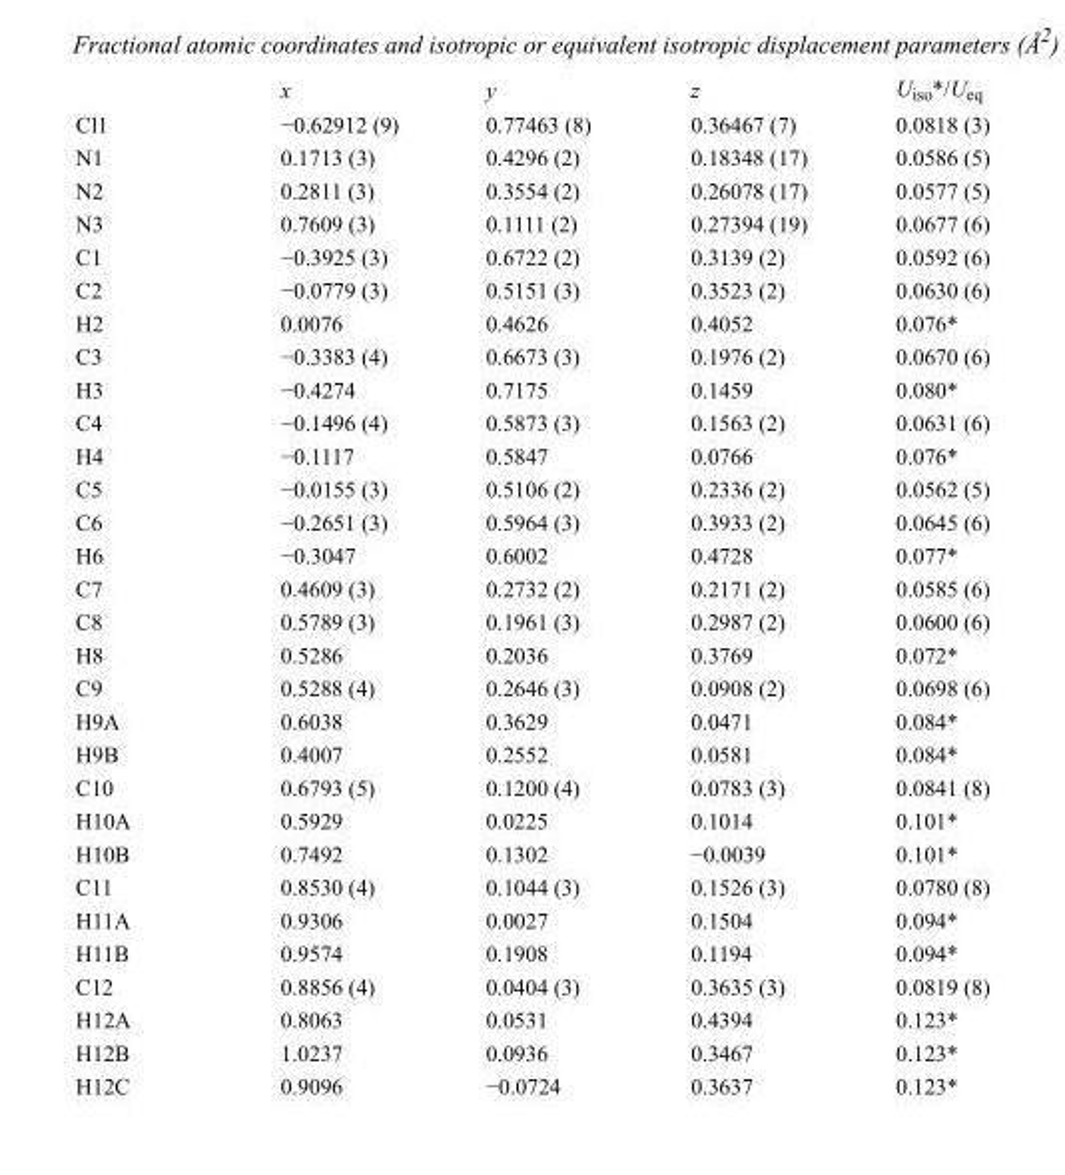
<table><thead><tr><td></td><td>x</td><td>y</td><td>z</td><td>U<sub>iso</sub>*/U<sub>eq</sub></td></tr></thead><tbody><tr><td>Cl1</td><td>−0.62912 (9)</td><td>0.77463 (8)</td><td>0.36467 (7)</td><td>0.0818 (3)</td></tr><tr><td>N1</td><td>0.1713 (3)</td><td>0.4296 (2)</td><td>0.18348 (17)</td><td>0.0586 (5)</td></tr><tr><td>N2</td><td>0.2811 (3)</td><td>0.3554 (2)</td><td>0.26078 (17)</td><td>0.0577 (5)</td></tr><tr><td>N3</td><td>0.7609 (3)</td><td>0.1111 (2)</td><td>0.27394 (19)</td><td>0.0677 (6)</td></tr><tr><td>C1</td><td>−0.3925 (3)</td><td>0.6722 (2)</td><td>0.3139 (2)</td><td>0.0592 (6)</td></tr><tr><td>C2</td><td>−0.0779 (3)</td><td>0.5151 (3)</td><td>0.3523 (2)</td><td>0.0630 (6)</td></tr><tr><td>H2</td><td>0.0076</td><td>0.4626</td><td>0.4052</td><td>0.076*</td></tr><tr><td>C3</td><td>−0.3383 (4)</td><td>0.6673 (3)</td><td>0.1976 (2)</td><td>0.0670 (6)</td></tr><tr><td>H3</td><td>−0.4274</td><td>0.7175</td><td>0.1459</td><td>0.080*</td></tr><tr><td>C4</td><td>−0.1496 (4)</td><td>0.5873 (3)</td><td>0.1563 (2)</td><td>0.0631 (6)</td></tr><tr><td>H4</td><td>−0.1117</td><td>0.5847</td><td>0.0766</td><td>0.076*</td></tr><tr><td>C5</td><td>−0.0155 (3)</td><td>0.5106 (2)</td><td>0.2336 (2)</td><td>0.0562 (5)</td></tr><tr><td>C6</td><td>−0.2651 (3)</td><td>0.5964 (3)</td><td>0.3933 (2)</td><td>0.0645 (6)</td></tr><tr><td>H6</td><td>−0.3047</td><td>0.6002</td><td>0.4728</td><td>0.077*</td></tr><tr><td>C7</td><td>0.4609 (3)</td><td>0.2732 (2)</td><td>0.2171 (2)</td><td>0.0585 (6)</td></tr><tr><td>C8</td><td>0.5789 (3)</td><td>0.1961 (3)</td><td>0.2987 (2)</td><td>0.0600 (6)</td></tr><tr><td>H8</td><td>0.5286</td><td>0.2036</td><td>0.3769</td><td>0.072*</td></tr><tr><td>C9</td><td>0.5288 (4)</td><td>0.2646 (3)</td><td>0.0908 (2)</td><td>0.0698 (6)</td></tr><tr><td>H9A</td><td>0.6038</td><td>0.3629</td><td>0.0471</td><td>0.084*</td></tr><tr><td>H9B</td><td>0.4007</td><td>0.2552</td><td>0.0581</td><td>0.084*</td></tr><tr><td>C10</td><td>0.6793 (5)</td><td>0.1200 (4)</td><td>0.0783 (3)</td><td>0.0841 (8)</td></tr><tr><td>H10A</td><td>0.5929</td><td>0.0225</td><td>0.1014</td><td>0.101*</td></tr><tr><td>H10B</td><td>0.7492</td><td>0.1302</td><td>−0.0039</td><td>0.101*</td></tr><tr><td>C11</td><td>0.8530 (4)</td><td>0.1044 (3)</td><td>0.1526 (3)</td><td>0.0780 (8)</td></tr><tr><td>H11A</td><td>0.9306</td><td>0.0027</td><td>0.1504</td><td>0.094*</td></tr><tr><td>H11B</td><td>0.9574</td><td>0.1908</td><td>0.1194</td><td>0.094*</td></tr><tr><td>C12</td><td>0.8856 (4)</td><td>0.0404 (3)</td><td>0.3635 (3)</td><td>0.0819 (8)</td></tr><tr><td>H12A</td><td>0.8063</td><td>0.0531</td><td>0.4394</td><td>0.123*</td></tr><tr><td>H12B</td><td>1.0237</td><td>0.0936</td><td>0.3467</td><td>0.123*</td></tr><tr><td>H12C</td><td>0.9096</td><td>−0.0724</td><td>0.3637</td><td>0.123*</td></tr></tbody></table>